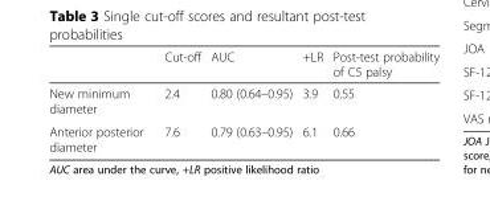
<table><thead><tr><td></td><td>Cut-off</td><td>AUC</td><td>+LR</td><td>Post-test probability of C5 palsy</td></tr></thead><tbody><tr><td>New minimum diameter</td><td>2.4</td><td>0.80 (0.64–0.95)</td><td>3.9</td><td>0.55</td></tr><tr><td>Anterior posterior diameter</td><td>7.6</td><td>0.79 (0.63–0.95)</td><td>6.1</td><td>0.66</td></tr></tbody></table>